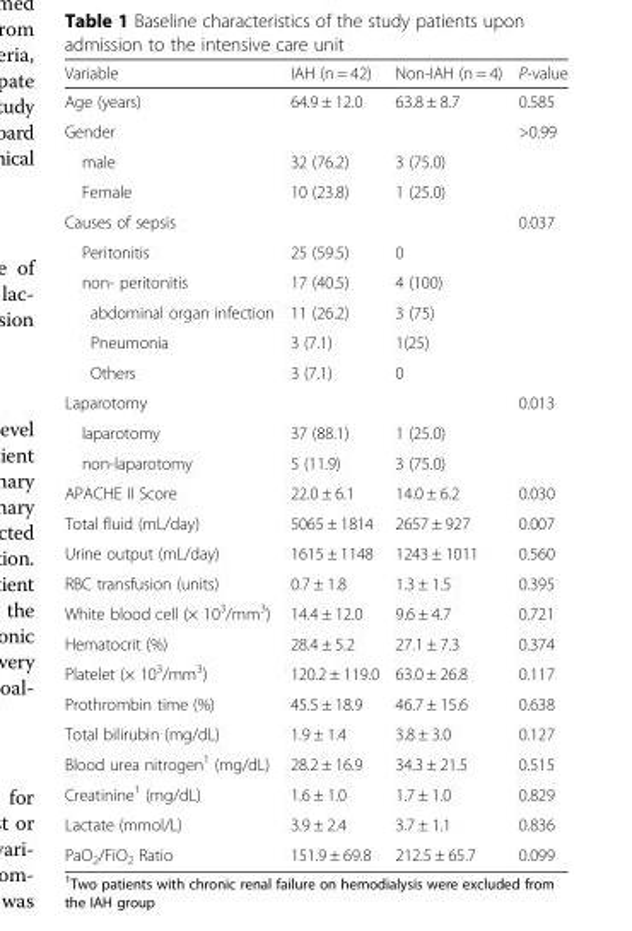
<table><thead><tr><td>Variable</td><td>IAH (n = 42)</td><td>Non-IAH (n = 4)</td><td>P-value</td></tr></thead><tbody><tr><td>Age (years)</td><td>64.9 ± 12.0</td><td>63.8 ± 8.7</td><td>0.585</td></tr><tr><td>Gender</td><td></td><td></td><td>&gt;0.99</td></tr><tr><td>male</td><td>32 (76.2)</td><td>3 (75.0)</td><td></td></tr><tr><td>Female</td><td>10 (23.8)</td><td>1 (25.0)</td><td></td></tr><tr><td>Causes of sepsis</td><td></td><td></td><td>0.037</td></tr><tr><td>Peritonitis</td><td>25 (59.5)</td><td>0</td><td></td></tr><tr><td>non- peritonitis</td><td>17 (40.5)</td><td>4 (100)</td><td></td></tr><tr><td>abdominal organ infection</td><td>11 (26.2)</td><td>3 (75)</td><td></td></tr><tr><td>Pneumonia</td><td>3 (7.1)</td><td>1(25)</td><td></td></tr><tr><td>Others</td><td>3 (7.1)</td><td>0</td><td></td></tr><tr><td>Laparotomy</td><td></td><td></td><td>0.013</td></tr><tr><td>laparotomy</td><td>37 (88.1)</td><td>1 (25.0)</td><td></td></tr><tr><td>non-laparotomy</td><td>5 (11.9)</td><td>3 (75.0)</td><td></td></tr><tr><td>APACHE II Score</td><td>22.0 ± 6.1</td><td>14.0 ± 6.2</td><td>0.030</td></tr><tr><td>Total fluid (mL/day)</td><td>5065 ± 1814</td><td>2657 ± 927</td><td>0.007</td></tr><tr><td>Urine output (mL/day)</td><td>1615 ± 1148</td><td>1243 ± 1011</td><td>0.560</td></tr><tr><td>RBC transfusion (units)</td><td>0.7 ± 1.8</td><td>1.3 ± 1.5</td><td>0.395</td></tr><tr><td>White blood cell (× 10<sup>3</sup>/mm<sup>3</sup>)</td><td>14.4 ± 12.0</td><td>9.6 ± 4.7</td><td>0.721</td></tr><tr><td>Hematocrit (%)</td><td>28.4 ± 5.2</td><td>27.1 ± 7.3</td><td>0.374</td></tr><tr><td>Platelet (× 10<sup>3</sup>/mm<sup>3</sup>)</td><td>120.2 ± 119.0</td><td>63.0 ± 26.8</td><td>0.117</td></tr><tr><td>Prothrombin time (%)</td><td>45.5 ± 18.9</td><td>46.7 ± 15.6</td><td>0.638</td></tr><tr><td>Total bilirubin (mg/dL)</td><td>1.9 ± 1.4</td><td>3.8 ± 3.0</td><td>0.127</td></tr><tr><td>Blood urea nitrogen<sup>1</sup> (mg/dL)</td><td>28.2 ± 16.9</td><td>34.3 ± 21.5</td><td>0.515</td></tr><tr><td>Creatinine<sup>1</sup> (mg/dL)</td><td>1.6 ± 1.0</td><td>1.7 ± 1.0</td><td>0.829</td></tr><tr><td>Lactate (mmol/L)</td><td>3.9 ± 2.4</td><td>3.7 ± 1.1</td><td>0.836</td></tr><tr><td>PaO<sub>2</sub>/FiO<sub>2</sub> Ratio</td><td>151.9 ± 69.8</td><td>212.5 ± 65.7</td><td>0.099</td></tr></tbody></table>